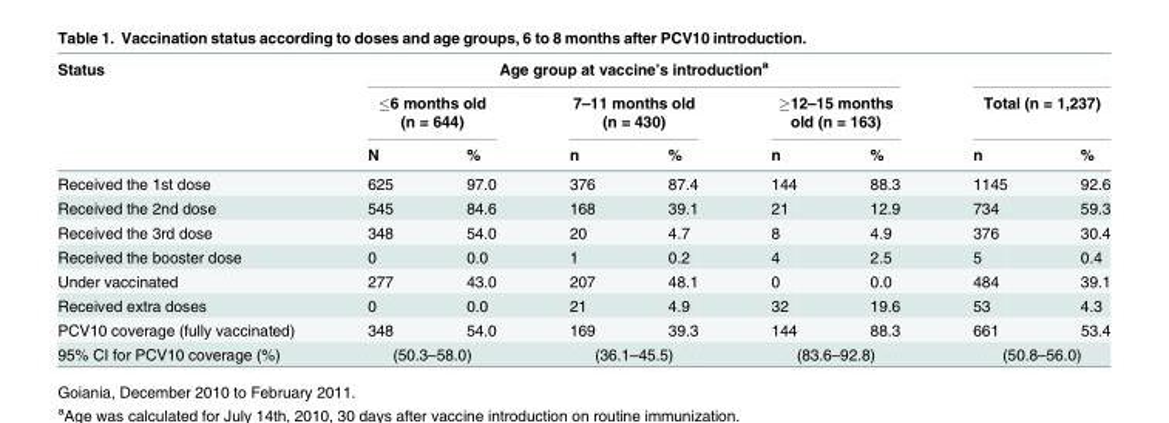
<table><thead><tr><td rowspan="3">Status</td><td colspan="6">Age group at vaccine’s introduction<sup>a</sup></td><td></td><td></td></tr><tr><td colspan="2">≤6 months old (n = 644)</td><td colspan="2">7–11 months old (n = 430)</td><td colspan="2">≥12–15 months old (n = 163)</td><td colspan="2">Total (n = 1,237)</td></tr><tr><td>N</td><td>%</td><td>n</td><td>%</td><td>n</td><td>%</td><td>n</td><td>%</td></tr></thead><tbody><tr><td>Received the 1st dose</td><td>625</td><td>97.0</td><td>376</td><td>87.4</td><td>144</td><td>88.3</td><td>1145</td><td>92.6</td></tr><tr><td>Received the 2nd dose</td><td>545</td><td>84.6</td><td>168</td><td>39.1</td><td>21</td><td>12.9</td><td>734</td><td>59.3</td></tr><tr><td>Received the 3rd dose</td><td>348</td><td>54.0</td><td>20</td><td>4.7</td><td>8</td><td>4.9</td><td>376</td><td>30.4</td></tr><tr><td>Received the booster dose</td><td>0</td><td>0.0</td><td>1</td><td>0.2</td><td>4</td><td>2.5</td><td>5</td><td>0.4</td></tr><tr><td>Under vaccinated</td><td>277</td><td>43.0</td><td>207</td><td>48.1</td><td>0</td><td>0.0</td><td>484</td><td>39.1</td></tr><tr><td>Received extra doses</td><td>0</td><td>0.0</td><td>21</td><td>4.9</td><td>32</td><td>19.6</td><td>53</td><td>4.3</td></tr><tr><td>PCV10 coverage (fully vaccinated)</td><td>348</td><td>54.0</td><td>169</td><td>39.3</td><td>144</td><td>88.3</td><td>661</td><td>53.4</td></tr><tr><td>95% CI for PCV10 coverage (%)</td><td colspan="2">(50.3–58.0)</td><td colspan="2">(36.1–45.5)</td><td colspan="2">(83.6–92.8)</td><td colspan="2">(50.8–56.0)</td></tr></tbody></table>